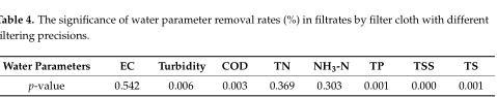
<table><thead><tr><td>Water Parameters</td><td>EC</td><td>Turbidity</td><td>COD</td><td>TN</td><td>NH<sub>3</sub>-N</td><td>TP</td><td>TSS</td><td>TS</td></tr></thead><tbody><tr><td>p-value</td><td>0.542</td><td>0.006</td><td>0.003</td><td>0.369</td><td>0.303</td><td>0.001</td><td>0.000</td><td>0.001</td></tr></tbody></table>